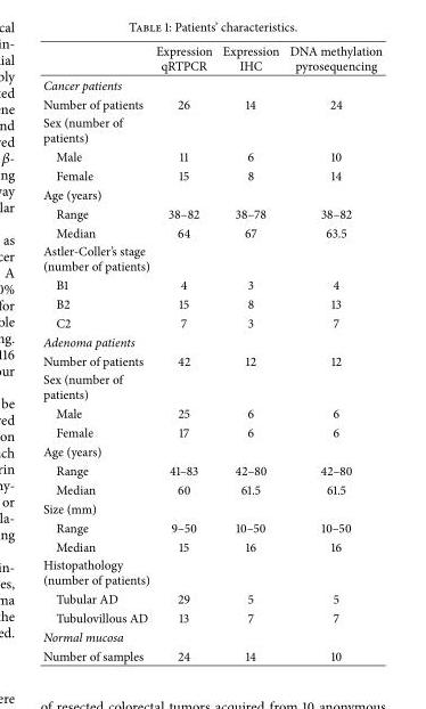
<table><thead><tr><td></td><td>Expression qRTPCR</td><td>Expression IHC</td><td>DNA methylation pyrosequencing</td></tr></thead><tbody><tr><td colspan="4">Cancer patients</td></tr><tr><td>Number of patients</td><td>26</td><td>14</td><td>24</td></tr><tr><td colspan="4">Sex (number of patients)</td></tr><tr><td>Male</td><td>11</td><td>6</td><td>10</td></tr><tr><td>Female</td><td>15</td><td>8</td><td>14</td></tr><tr><td colspan="4">Age (years)</td></tr><tr><td>Range</td><td>38–82</td><td>38–78</td><td>38–82</td></tr><tr><td>Median</td><td>64</td><td>67</td><td>63.5</td></tr><tr><td colspan="4">Astler-Coller’s stage (number of patients)</td></tr><tr><td>B1</td><td>4</td><td>3</td><td>4</td></tr><tr><td>B2</td><td>15</td><td>8</td><td>13</td></tr><tr><td>C2</td><td>7</td><td>3</td><td>7</td></tr><tr><td colspan="4">Adenoma patients</td></tr><tr><td>Number of patients</td><td>42</td><td>12</td><td>12</td></tr><tr><td colspan="4">Sex (number of patients)</td></tr><tr><td>Male</td><td>25</td><td>6</td><td>6</td></tr><tr><td>Female</td><td>17</td><td>6</td><td>6</td></tr><tr><td colspan="4">Age (years)</td></tr><tr><td>Range</td><td>41–83</td><td>42–80</td><td>42–80</td></tr><tr><td>Median</td><td>60</td><td>61.5</td><td>61.5</td></tr><tr><td colspan="4">Size (mm)</td></tr><tr><td>Range</td><td>9–50</td><td>10–50</td><td>10–50</td></tr><tr><td>Median</td><td>15</td><td>16</td><td>16</td></tr><tr><td colspan="4">Histopathology (number of patients)</td></tr><tr><td>Tubular AD</td><td>29</td><td>5</td><td>5</td></tr><tr><td>Tubulovillous AD</td><td>13</td><td>7</td><td>7</td></tr><tr><td colspan="4">Normal mucosa</td></tr><tr><td>Number of samples</td><td>24</td><td>14</td><td>10</td></tr></tbody></table>